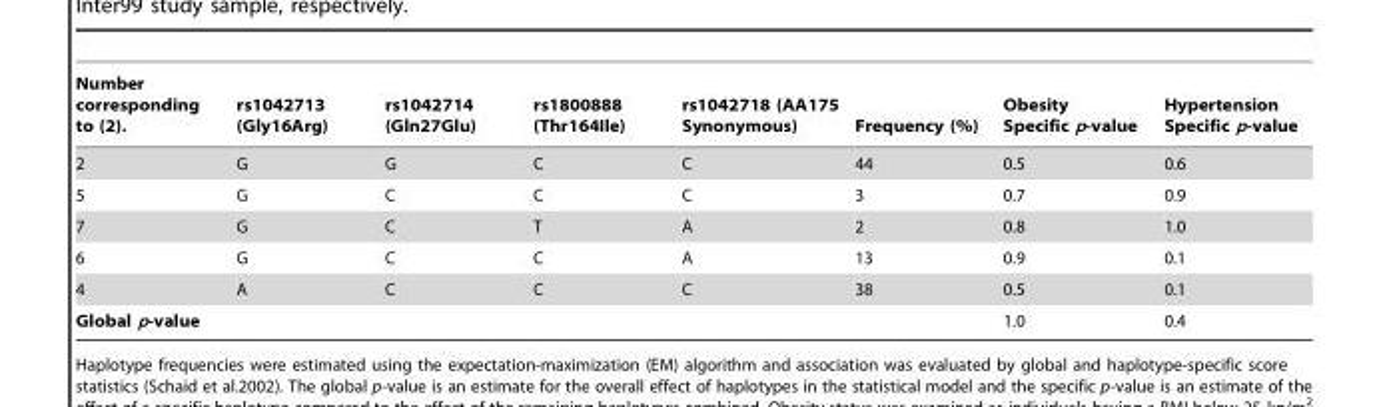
<table><thead><tr><td>Number corresponding to (2).</td><td>rs1042713 (Gly16Arg)</td><td>rs1042714 (Gln27Glu)</td><td>rs1800888 (Thr164Ile)</td><td>rs1042718 (AA175 Synonymous)</td><td>Frequency (%)</td><td>Obesity Specific p-value</td><td>Hypertension Specific p-value</td></tr></thead><tbody><tr><td>2</td><td>G</td><td>G</td><td>C</td><td>C</td><td>44</td><td>0.5</td><td>0.6</td></tr><tr><td>5</td><td>G</td><td>C</td><td>C</td><td>C</td><td>3</td><td>0.7</td><td>0.9</td></tr><tr><td>7</td><td>G</td><td>C</td><td>T</td><td>A</td><td>2</td><td>0.8</td><td>1.0</td></tr><tr><td>6</td><td>G</td><td>C</td><td>C</td><td>A</td><td>13</td><td>0.9</td><td>0.1</td></tr><tr><td>4</td><td>A</td><td>C</td><td>C</td><td>C</td><td>38</td><td>0.5</td><td>0.1</td></tr><tr><td>Global p-value</td><td></td><td></td><td></td><td></td><td></td><td>1.0</td><td>0.4</td></tr></tbody></table>